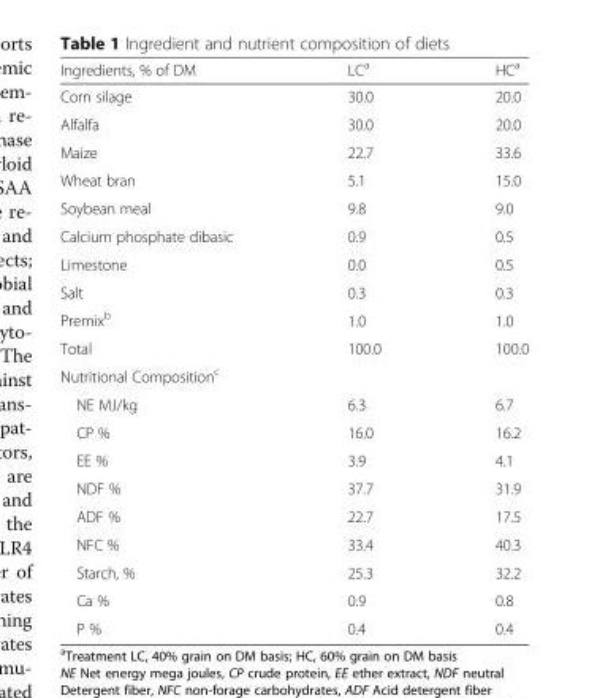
<table><thead><tr><td>Ingredients, % of DM</td><td>LC<sup>a</sup></td><td>HC<sup>a</sup></td></tr></thead><tbody><tr><td>Corn silage</td><td>30.0</td><td>20.0</td></tr><tr><td>Alfalfa</td><td>30.0</td><td>20.0</td></tr><tr><td>Maize</td><td>22.7</td><td>33.6</td></tr><tr><td>Wheat bran</td><td>5.1</td><td>15.0</td></tr><tr><td>Soybean meal</td><td>9.8</td><td>9.0</td></tr><tr><td>Calcium phosphate dibasic</td><td>0.9</td><td>0.5</td></tr><tr><td>Limestone</td><td>0.0</td><td>0.5</td></tr><tr><td>Salt</td><td>0.3</td><td>0.3</td></tr><tr><td>Premix<sup>b</sup></td><td>1.0</td><td>1.0</td></tr><tr><td>Total</td><td>100.0</td><td>100.0</td></tr><tr><td colspan="3">Nutritional Composition<sup>c</sup></td></tr><tr><td>NE MJ/kg</td><td>6.3</td><td>6.7</td></tr><tr><td>CP %</td><td>16.0</td><td>16.2</td></tr><tr><td>EE %</td><td>3.9</td><td>4.1</td></tr><tr><td>NDF %</td><td>37.7</td><td>31.9</td></tr><tr><td>ADF %</td><td>22.7</td><td>17.5</td></tr><tr><td>NFC %</td><td>33.4</td><td>40.3</td></tr><tr><td>Starch, %</td><td>25.3</td><td>32.2</td></tr><tr><td>Ca %</td><td>0.9</td><td>0.8</td></tr><tr><td>P %</td><td>0.4</td><td>0.4</td></tr></tbody></table>